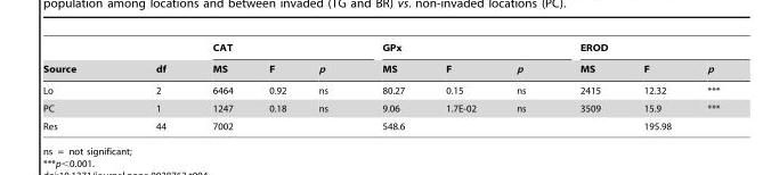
<table><thead><tr><td rowspan="2">Source</td><td rowspan="2">df</td><td colspan="3">CAT</td><td colspan="3">GPx</td><td colspan="3">EROD</td></tr><tr><td>MS</td><td>F</td><td>p</td><td>MS</td><td>F</td><td>p</td><td>MS</td><td>F</td><td>p</td></tr></thead><tbody><tr><td>Lo</td><td>2</td><td>6464</td><td>0.92</td><td>ns</td><td>80.27</td><td>0.15</td><td>ns</td><td>2415</td><td>12.32</td><td>***</td></tr><tr><td>PC</td><td>1</td><td>1247</td><td>0.18</td><td>ns</td><td>9.06</td><td>1.7E-02</td><td>ns</td><td>3509</td><td>15.9</td><td>***</td></tr><tr><td>Res</td><td>44</td><td>7002</td><td></td><td></td><td>548.6</td><td></td><td></td><td></td><td>195.98</td><td></td></tr></tbody></table>